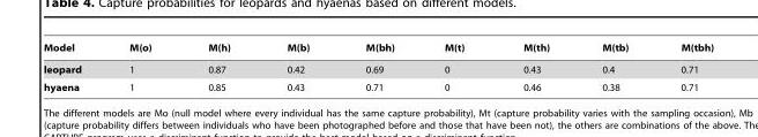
<table><thead><tr><td>Model</td><td>M(o)</td><td>M(h)</td><td>M(b)</td><td>M(bh)</td><td>M(t)</td><td>M(th)</td><td>M(tb)</td><td>M(tbh)</td></tr></thead><tbody><tr><td>leopard</td><td>1</td><td>0.87</td><td>0.42</td><td>0.69</td><td>0</td><td>0.43</td><td>0.4</td><td>0.71</td></tr><tr><td>hyaena</td><td>1</td><td>0.85</td><td>0.43</td><td>0.71</td><td>0</td><td>0.46</td><td>0.38</td><td>0.71</td></tr></tbody></table>